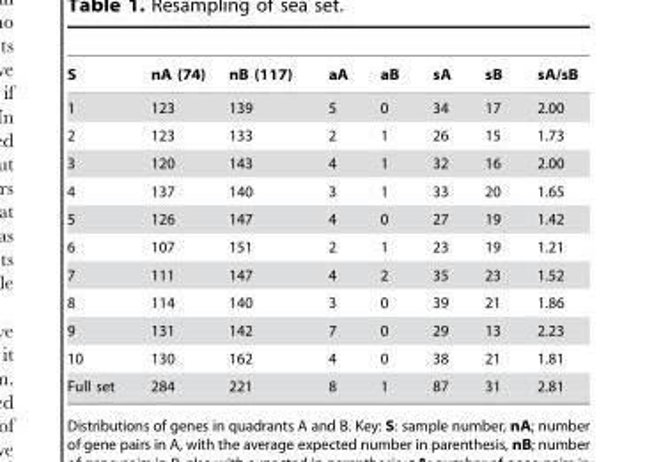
<table><thead><tr><td>S</td><td>nA (74)</td><td>nB (117)</td><td>aA</td><td>aB</td><td>sA</td><td>sB</td><td>sA/sB</td></tr></thead><tbody><tr><td>1</td><td>123</td><td>139</td><td>5</td><td>0</td><td>34</td><td>17</td><td>2.00</td></tr><tr><td>2</td><td>123</td><td>133</td><td>2</td><td>1</td><td>26</td><td>15</td><td>1.73</td></tr><tr><td>3</td><td>120</td><td>143</td><td>4</td><td>1</td><td>32</td><td>16</td><td>2.00</td></tr><tr><td>4</td><td>137</td><td>140</td><td>3</td><td>1</td><td>33</td><td>20</td><td>1.65</td></tr><tr><td>5</td><td>126</td><td>147</td><td>4</td><td>0</td><td>27</td><td>19</td><td>1.42</td></tr><tr><td>6</td><td>107</td><td>151</td><td>2</td><td>1</td><td>23</td><td>19</td><td>1.21</td></tr><tr><td>7</td><td>111</td><td>147</td><td>4</td><td>2</td><td>35</td><td>23</td><td>1.52</td></tr><tr><td>8</td><td>114</td><td>140</td><td>3</td><td>0</td><td>39</td><td>21</td><td>1.86</td></tr><tr><td>9</td><td>131</td><td>142</td><td>7</td><td>0</td><td>29</td><td>13</td><td>2.23</td></tr><tr><td>10</td><td>130</td><td>162</td><td>4</td><td>0</td><td>38</td><td>21</td><td>1.81</td></tr><tr><td>Full set</td><td>284</td><td>221</td><td>8</td><td>1</td><td>87</td><td>31</td><td>2.81</td></tr></tbody></table>